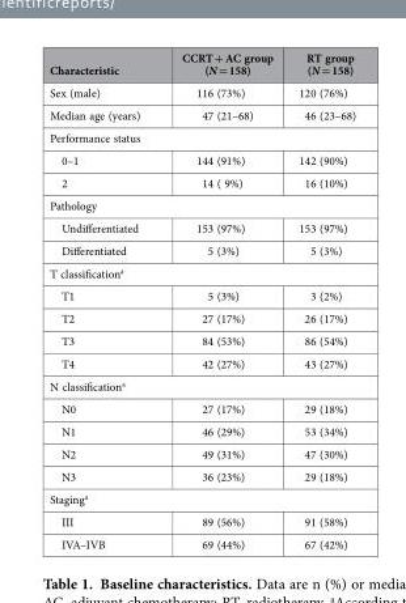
<table><thead><tr><td>Characteristic</td><td>CCRT + AC group (N = 158)</td><td>RT group (N = 158)</td></tr></thead><tbody><tr><td>Sex (male)</td><td>116 (73%)</td><td>120 (76%)</td></tr><tr><td>Median age (years)</td><td>47 (21–68)</td><td>46 (23–68)</td></tr><tr><td colspan="3">Performance status</td></tr><tr><td>0–1</td><td>144 (91%)</td><td>142 (90%)</td></tr><tr><td>2</td><td>14 ( 9%)</td><td>16 (10%)</td></tr><tr><td colspan="3">Pathology</td></tr><tr><td>Undifferentiated</td><td>153 (97%)</td><td>153 (97%)</td></tr><tr><td>Differentiated</td><td>5 (3%)</td><td>5 (3%)</td></tr><tr><td colspan="3">T classification<sup>a</sup></td></tr><tr><td>T1</td><td>5 (3%)</td><td>3 (2%)</td></tr><tr><td>T2</td><td>27 (17%)</td><td>26 (17%)</td></tr><tr><td>T3</td><td>84 (53%)</td><td>86 (54%)</td></tr><tr><td>T4</td><td>42 (27%)</td><td>43 (27%)</td></tr><tr><td colspan="3">N classification<sup>a</sup></td></tr><tr><td>N0</td><td>27 (17%)</td><td>29 (18%)</td></tr><tr><td>N1</td><td>46 (29%)</td><td>53 (34%)</td></tr><tr><td>N2</td><td>49 (31%)</td><td>47 (30%)</td></tr><tr><td>N3</td><td>36 (23%)</td><td>29 (18%)</td></tr><tr><td colspan="3">Staging<sup>a</sup></td></tr><tr><td>III</td><td>89 (56%)</td><td>91 (58%)</td></tr><tr><td>IVA–IVB</td><td>69 (44%)</td><td>67 (42%)</td></tr></tbody></table>